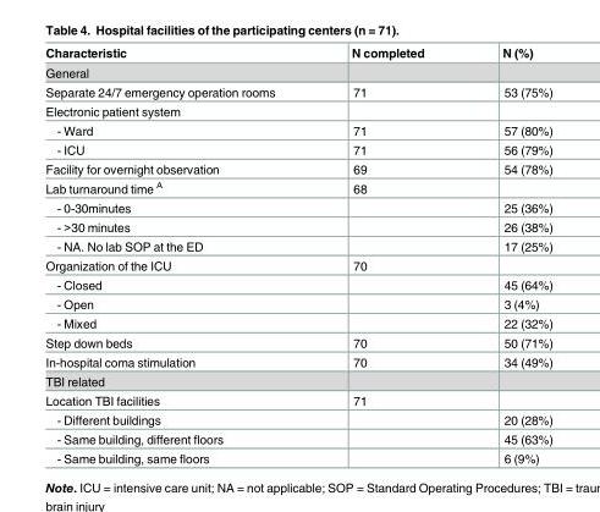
<table><thead><tr><td>Characteristic</td><td>N completed</td><td>N (%)</td></tr></thead><tbody><tr><td colspan="3">General</td></tr><tr><td>Separate 24/7 emergency operation rooms</td><td>71</td><td>53 (75%)</td></tr><tr><td colspan="3">Electronic patient system</td></tr><tr><td>- Ward</td><td>71</td><td>57 (80%)</td></tr><tr><td>- ICU</td><td>71</td><td>56 (79%)</td></tr><tr><td>Facility for overnight observation</td><td>69</td><td>54 (78%)</td></tr><tr><td>Lab turnaround time <sup>A</sup></td><td>68</td><td></td></tr><tr><td>- 0-30minutes</td><td></td><td>25 (36%)</td></tr><tr><td>- &gt;30 minutes</td><td></td><td>26 (38%)</td></tr><tr><td>- NA. No lab SOP at the ED</td><td></td><td>17 (25%)</td></tr><tr><td>Organization of the ICU</td><td>70</td><td></td></tr><tr><td>- Closed</td><td></td><td>45 (64%)</td></tr><tr><td>- Open</td><td></td><td>3 (4%)</td></tr><tr><td>- Mixed</td><td></td><td>22 (32%)</td></tr><tr><td>Step down beds</td><td>70</td><td>50 (71%)</td></tr><tr><td>In-hospital coma stimulation</td><td>70</td><td>34 (49%)</td></tr><tr><td colspan="3">TBI related</td></tr><tr><td>Location TBI facilities</td><td>71</td><td></td></tr><tr><td>- Different buildings</td><td></td><td>20 (28%)</td></tr><tr><td>- Same building, different floors</td><td></td><td>45 (63%)</td></tr><tr><td>- Same building, same floors</td><td></td><td>6 (9%)</td></tr></tbody></table>